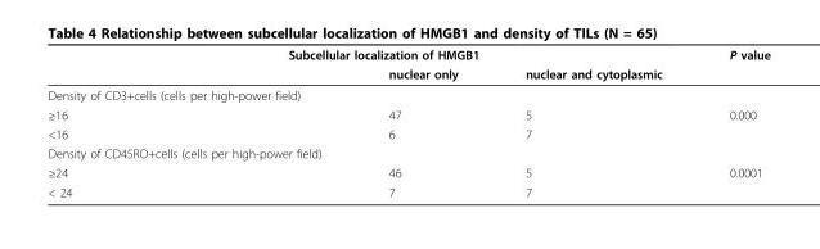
<table><thead><tr><td colspan="3">Subcellular localization of HMGB1</td><td rowspan="2">P value</td></tr><tr><td></td><td>nuclear only</td><td>nuclear and cytoplasmic</td></tr></thead><tbody><tr><td colspan="4">Density of CD3+cells (cells per high-power field)</td></tr><tr><td>≥16</td><td>47</td><td>5</td><td>0.000</td></tr><tr><td>&lt;16</td><td>6</td><td>7</td><td></td></tr><tr><td colspan="4">Density of CD45RO+cells (cells per high-power field)</td></tr><tr><td>≥24</td><td>46</td><td>5</td><td>0.0001</td></tr><tr><td>&lt; 24</td><td>7</td><td>7</td><td></td></tr></tbody></table>